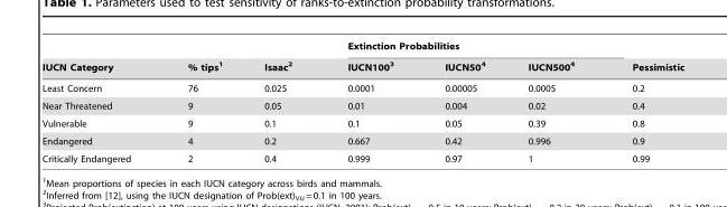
<table><thead><tr><td rowspan="2">IUCN Category</td><td rowspan="2">% tips<sup>1</sup></td><td rowspan="2">Isaac<sup>2</sup></td><td colspan="3">Extinction Probabilities</td><td rowspan="2">Pessimistic</td></tr><tr><td>IUCN100<sup>3</sup></td><td>IUCN50<sup>4</sup></td><td>IUCN500<sup>4</sup></td></tr></thead><tbody><tr><td>Least Concern</td><td>76</td><td>0.025</td><td>0.0001</td><td>0.00005</td><td>0.0005</td><td>0.2</td></tr><tr><td>Near Threatened</td><td>9</td><td>0.05</td><td>0.01</td><td>0.004</td><td>0.02</td><td>0.4</td></tr><tr><td>Vulnerable</td><td>9</td><td>0.1</td><td>0.1</td><td>0.05</td><td>0.39</td><td>0.8</td></tr><tr><td>Endangered</td><td>4</td><td>0.2</td><td>0.667</td><td>0.42</td><td>0.996</td><td>0.9</td></tr><tr><td>Critically Endangered</td><td>2</td><td>0.4</td><td>0.999</td><td>0.97</td><td>1</td><td>0.99</td></tr></tbody></table>